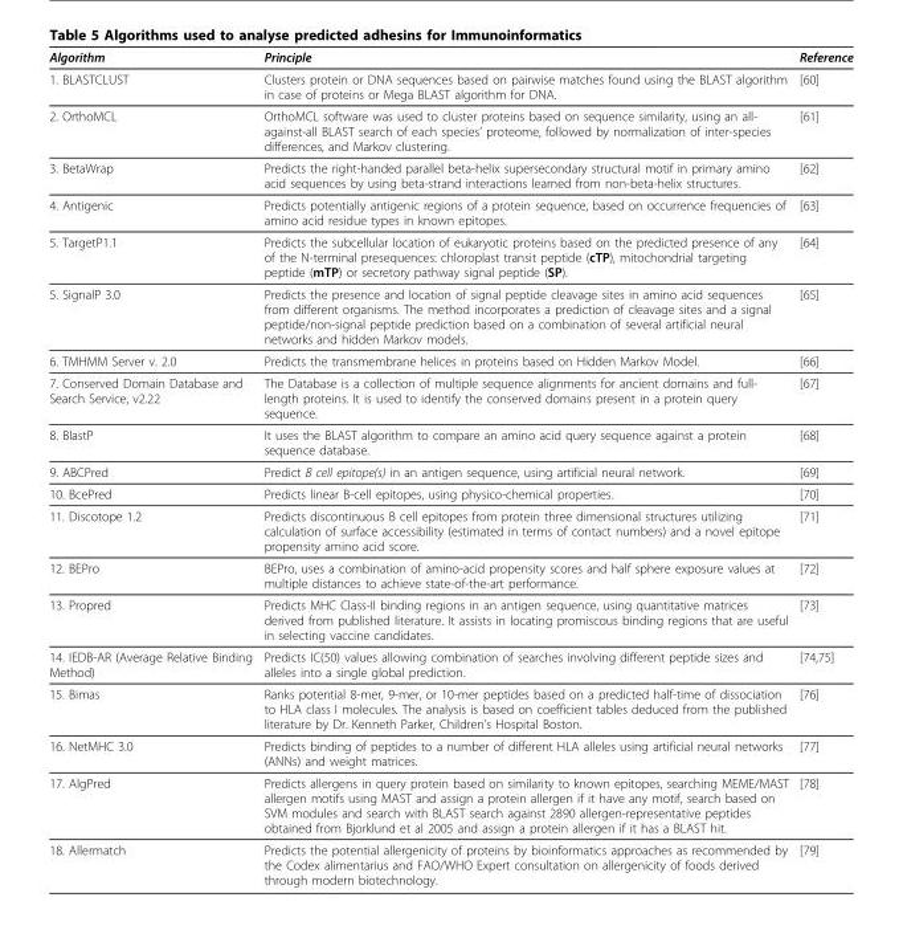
<table><thead><tr><td>Algorithm</td><td>Principle</td><td>Reference</td></tr></thead><tbody><tr><td>1. BLASTCLUST</td><td>Clusters protein or DNA sequences based on pairwise matches found using the BLAST algorithm in case of proteins or Mega BLAST algorithm for DNA.</td><td>[60]</td></tr><tr><td>2. OrthoMCL</td><td>OrthoMCL software was used to cluster proteins based on sequence similarity, using an all- against-all BLAST search of each species’ proteome, followed by normalization of inter-species differences, and Markov clustering.</td><td>[61]</td></tr><tr><td>3. BetaWrap</td><td>Predicts the right-handed parallel beta-helix supersecondary structural motif in primary amino acid sequences by using beta-strand interactions learned from non-beta-helix structures.</td><td>[62]</td></tr><tr><td>4. Antigenic</td><td>Predicts potentially antigenic regions of a protein sequence, based on occurrence frequencies of amino acid residue types in known epitopes.</td><td>[63]</td></tr><tr><td>5. TargetP1.1</td><td>Predicts the subcellular location of eukaryotic proteins based on the predicted presence of any of the N-terminal presequences: chloroplast transit peptide (cTP), mitochondrial targeting peptide (mTP) or secretory pathway signal peptide (SP).</td><td>[64]</td></tr><tr><td>5. SignalP 3.0</td><td>Predicts the presence and location of signal peptide cleavage sites in amino acid sequences from different organisms. The method incorporates a prediction of cleavage sites and a signal peptide/non-signal peptide prediction based on a combination of several artificial neural networks and hidden Markov models.</td><td>[65]</td></tr><tr><td>6. TMHMM Server v. 2.0</td><td>Predicts the transmembrane helices in proteins based on Hidden Markov Model.</td><td>[66]</td></tr><tr><td>7. Conserved Domain Database and Search Service, v2.22</td><td>The Database is a collection of multiple sequence alignments for ancient domains and full- length proteins. It is used to identify the conserved domains present in a protein query sequence.</td><td>[67]</td></tr><tr><td>8. BlastP</td><td>It uses the BLAST algorithm to compare an amino acid query sequence against a protein sequence database.</td><td>[68]</td></tr><tr><td>9. ABCPred</td><td>Predict B cell epitope(s) in an antigen sequence, using artificial neural network.</td><td>[69]</td></tr><tr><td>10. BcePred</td><td>Predicts linear B-cell epitopes, using physico-chemical properties.</td><td>[70]</td></tr><tr><td>11. Discotope 1.2</td><td>Predicts discontinuous B cell epitopes from protein three dimensional structures utilizing calculation of surface accessibility (estimated in terms of contact numbers) and a novel epitope propensity amino acid score.</td><td>[71]</td></tr><tr><td>12. BEPro</td><td>BEPro, uses a combination of amino-acid propensity scores and half sphere exposure values at multiple distances to achieve state-of-the-art performance.</td><td>[72]</td></tr><tr><td>13. Propred</td><td>Predicts MHC Class-II binding regions in an antigen sequence, using quantitative matrices derived from published literature. It assists in locating promiscous binding regions that are useful in selecting vaccine candidates.</td><td>[73]</td></tr><tr><td>14. IEDB-AR (Average Relative Binding Method)</td><td>Predicts IC(50) values allowing combination of searches involving different peptide sizes and alleles into a single global prediction.</td><td>[74,75]</td></tr><tr><td>15. Bimas</td><td>Ranks potential 8-mer, 9-mer, or 10-mer peptides based on a predicted half-time of dissociation to HLA class I molecules. The analysis is based on coefficient tables deduced from the published literature by Dr. Kenneth Parker, Children’s Hospital Boston.</td><td>[76]</td></tr><tr><td>16. NetMHC 3.0</td><td>Predicts binding of peptides to a number of different HLA alleles using artificial neural networks (ANNs) and weight matrices.</td><td>[77]</td></tr><tr><td>17. AlgPred</td><td>Predicts allergens in query protein based on similarity to known epitopes, searching MEME/MAST allergen motifs using MAST and assign a protein allergen if it have any motif, search based on SVM modules and search with BLAST search against 2890 allergen-representative peptides obtained from Bjorklund et al 2005 and assign a protein allergen if it has a BLAST hit.</td><td>[78]</td></tr><tr><td>18. Allermatch</td><td>Predicts the potential allergenicity of proteins by bioinformatics approaches as recommended by the Codex alimentarius and FAO/WHO Expert consultation on allergenicity of foods derived through modern biotechnology.</td><td>[79]</td></tr></tbody></table>